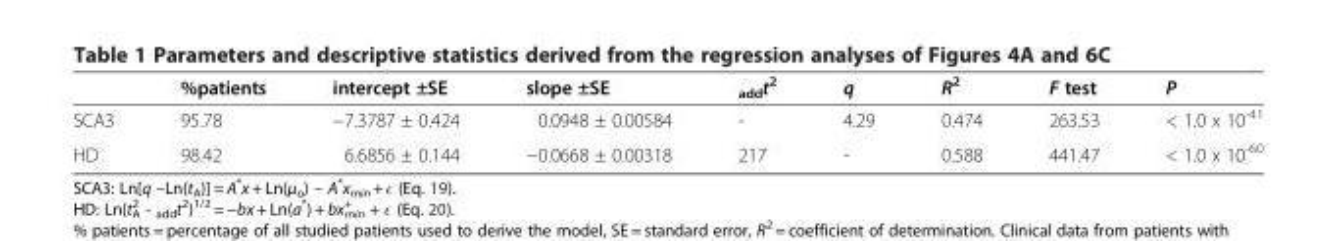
<table><thead><tr><td></td><td>%patients</td><td>intercept ±SE</td><td>slope ±SE</td><td><sub>add</sub>t<sup>2</sup></td><td>q</td><td>R<sup>2</sup></td><td>F test</td><td>P</td></tr></thead><tbody><tr><td>SCA3</td><td>95.78</td><td>−7.3787 ± 0.424</td><td>0.0948 ± 0.00584</td><td>-</td><td>4.29</td><td>0.474</td><td>263.53</td><td>&lt; 1.0 x 10<sup>-41</sup></td></tr><tr><td>HD</td><td>98.42</td><td>6.6856 ± 0.144</td><td>−0.0668 ± 0.00318</td><td>217</td><td>-</td><td>0.588</td><td>441.47</td><td>&lt; 1.0 x 10<sup>-60</sup></td></tr></tbody></table>